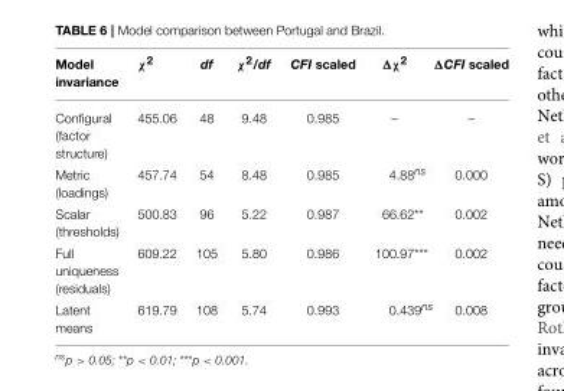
<table><thead><tr><td>Model invariance</td><td>χ<sup>2</sup></td><td>df</td><td>χ<sup>2</sup>/df</td><td>CFI scaled</td><td>Δχ<sup>2</sup></td><td>ΔCFI scaled</td></tr></thead><tbody><tr><td>Configural (factor structure)</td><td>455.06</td><td>48</td><td>9.48</td><td>0.985</td><td>–</td><td>–</td></tr><tr><td>Metric (loadings)</td><td>457.74</td><td>54</td><td>8.48</td><td>0.985</td><td>4.88<sup>ns</sup></td><td>0.000</td></tr><tr><td>Scalar (thresholds)</td><td>500.83</td><td>96</td><td>5.22</td><td>0.987</td><td>66.62**</td><td>0.002</td></tr><tr><td>Full uniqueness (residuals)</td><td>609.22</td><td>105</td><td>5.80</td><td>0.986</td><td>100.97***</td><td>0.002</td></tr><tr><td>Latent means</td><td>619.79</td><td>108</td><td>5.74</td><td>0.993</td><td>0.439<sup>ns</sup></td><td>0.008</td></tr></tbody></table>